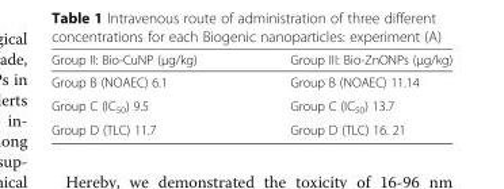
<table><thead><tr><td>Group II: Bio-CuNP (μg/kg)</td><td>Group III: Bio-ZnONPs (μg/kg)</td></tr></thead><tbody><tr><td>Group B (NOAEC) 6.1</td><td>Group B (NOAEC) 11.14</td></tr><tr><td>Group C (IC<sub>50</sub>) 9.5</td><td>Group C (IC<sub>50</sub>) 13.7</td></tr><tr><td>Group D (TLC) 11.7</td><td>Group D (TLC) 16. 21</td></tr></tbody></table>